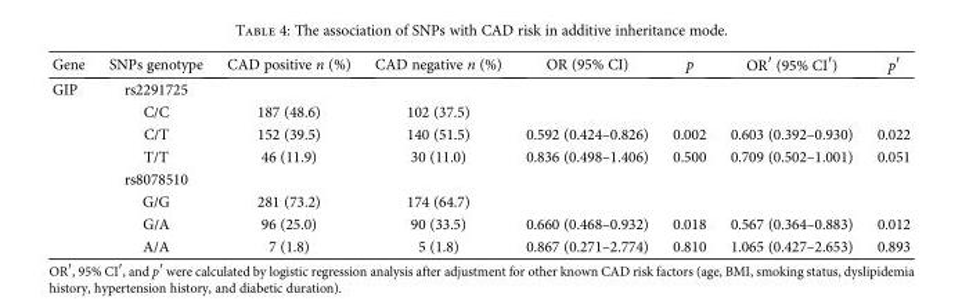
<table><thead><tr><td>Gene</td><td>SNPs genotype</td><td>CAD positive n (%)</td><td>CAD negative n (%)</td><td>OR (95% CI)</td><td>p</td><td>OR′ (95% CI′)</td><td>p′</td></tr></thead><tbody><tr><td rowspan="8">GIP</td><td>rs2291725</td><td></td><td></td><td></td><td></td><td></td><td></td></tr><tr><td>C/C</td><td>187 (48.6)</td><td>102 (37.5)</td><td></td><td></td><td></td><td></td></tr><tr><td>C/T</td><td>152 (39.5)</td><td>140 (51.5)</td><td>0.592 (0.424–0.826)</td><td>0.002</td><td>0.603 (0.392–0.930)</td><td>0.022</td></tr><tr><td>T/T</td><td>46 (11.9)</td><td>30 (11.0)</td><td>0.836 (0.498–1.406)</td><td>0.500</td><td>0.709 (0.502–1.001)</td><td>0.051</td></tr><tr><td>rs8078510</td><td></td><td></td><td></td><td></td><td></td><td></td></tr><tr><td>G/G</td><td>281 (73.2)</td><td>174 (64.7)</td><td></td><td></td><td></td><td></td></tr><tr><td>G/A</td><td>96 (25.0)</td><td>90 (33.5)</td><td>0.660 (0.468–0.932)</td><td>0.018</td><td>0.567 (0.364–0.883)</td><td>0.012</td></tr><tr><td>A/A</td><td>7 (1.8)</td><td>5 (1.8)</td><td>0.867 (0.271–2.774)</td><td>0.810</td><td>1.065 (0.427–2.653)</td><td>0.893</td></tr></tbody></table>